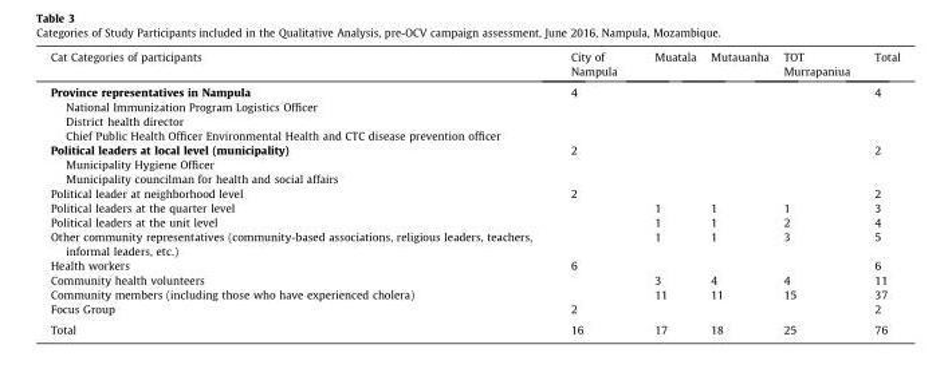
<table><thead><tr><td>Cat Categories of participants</td><td>City of Nampula</td><td>Muatala</td><td>Mutauanha</td><td>TOT Murrapaniua</td><td>Total</td></tr></thead><tbody><tr><td>Province representatives in Nampula National Immunization Program Logistics Officer District health director Chief Public Health Officer Environmental Health and CTC disease prevention officer</td><td>4</td><td></td><td></td><td></td><td>4</td></tr><tr><td>Political leaders at local level (municipality) Municipality Hygiene Officer Municipality councilman for health and social affairs</td><td>2</td><td></td><td></td><td></td><td>2</td></tr><tr><td>Political leader at neighborhood level</td><td>2</td><td></td><td></td><td></td><td>2</td></tr><tr><td>Political leaders at the quarter level</td><td></td><td>1</td><td>1</td><td>1</td><td>3</td></tr><tr><td>Political leaders at the unit level</td><td></td><td>1</td><td>1</td><td>2</td><td>4</td></tr><tr><td>Other community representatives (community-based associations, religious leaders, teachers, informal leaders, etc.)</td><td></td><td>1</td><td>1</td><td>3</td><td>5</td></tr><tr><td>Health workers</td><td>6</td><td></td><td></td><td></td><td>6</td></tr><tr><td>Community health volunteers</td><td></td><td>3</td><td>4</td><td>4</td><td>11</td></tr><tr><td>Community members (including those who have experienced cholera)</td><td></td><td>11</td><td>11</td><td>15</td><td>37</td></tr><tr><td>Focus Group</td><td>2</td><td></td><td></td><td></td><td>2</td></tr><tr><td>Total</td><td>16</td><td>17</td><td>18</td><td>25</td><td>76</td></tr></tbody></table>